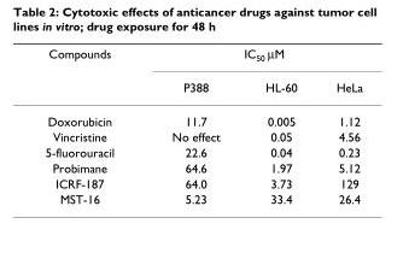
<table><thead><tr><td rowspan="2">Compounds</td><td colspan="3">IC<sub>50</sub> µM</td></tr><tr><td>P388</td><td>HL-60</td><td>HeLa</td></tr></thead><tbody><tr><td>Doxorubicin</td><td>11.7</td><td>0.005</td><td>1.12</td></tr><tr><td>Vincristine</td><td>No effect</td><td>0.05</td><td>4.56</td></tr><tr><td>5-fluorouracil</td><td>22.6</td><td>0.04</td><td>0.23</td></tr><tr><td>Probimane</td><td>64.6</td><td>1.97</td><td>5.12</td></tr><tr><td>ICRF-187</td><td>64.0</td><td>3.73</td><td>129</td></tr><tr><td>MST-16</td><td>5.23</td><td>33.4</td><td>26.4</td></tr></tbody></table>